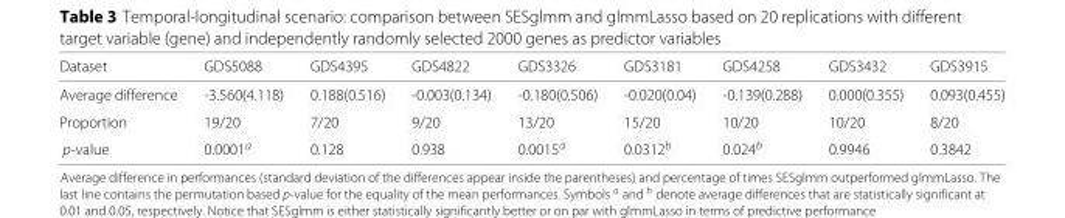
<table><thead><tr><td>Dataset</td><td>GDS5088</td><td>GDS4395</td><td>GDS4822</td><td>GDS3326</td><td>GDS3181</td><td>GDS4258</td><td>GDS3432</td><td>GDS3915</td></tr></thead><tbody><tr><td>Average difference</td><td>-3.560(4.118)</td><td>0.188(0.516)</td><td>-0.003(0.134)</td><td>-0.180(0.506)</td><td>-0.020(0.04)</td><td>-0.139(0.288)</td><td>0.000(0.355)</td><td>0.093(0.455)</td></tr><tr><td>Proportion</td><td>19/20</td><td>7/20</td><td>9/20</td><td>13/20</td><td>15/20</td><td>10/20</td><td>10/20</td><td>8/20</td></tr><tr><td>p-value</td><td>0.0001<sup>a</sup></td><td>0.128</td><td>0.938</td><td>0.0015<sup>a</sup></td><td>0.0312<sup>b</sup></td><td>0.024<sup>b</sup></td><td>0.9946</td><td>0.3842</td></tr></tbody></table>